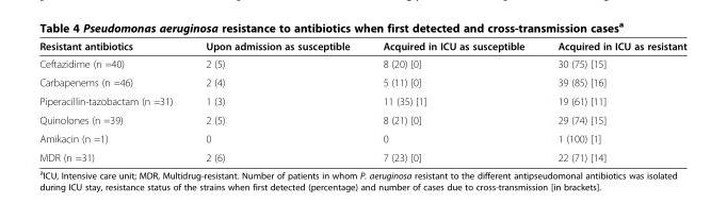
<table><thead><tr><td>Resistant antibiotics</td><td>Upon admission as susceptible</td><td>Acquired in ICU as susceptible</td><td>Acquired in ICU as resistant</td></tr></thead><tbody><tr><td>Ceftazidime (n =40)</td><td>2 (5)</td><td>8 (20) [0]</td><td>30 (75) [15]</td></tr><tr><td>Carbapenems (n =46)</td><td>2 (4)</td><td>5 (11) [0]</td><td>39 (85) [16]</td></tr><tr><td>Piperacillin-tazobactam (n =31)</td><td>1 (3)</td><td>11 (35) [1]</td><td>19 (61) [11]</td></tr><tr><td>Quinolones (n =39)</td><td>2 (5)</td><td>8 (21) [0]</td><td>29 (74) [15]</td></tr><tr><td>Amikacin (n =1)</td><td>0</td><td>0</td><td>1 (100) [1]</td></tr><tr><td>MDR (n =31)</td><td>2 (6)</td><td>7 (23) [0]</td><td>22 (71) [14]</td></tr></tbody></table>